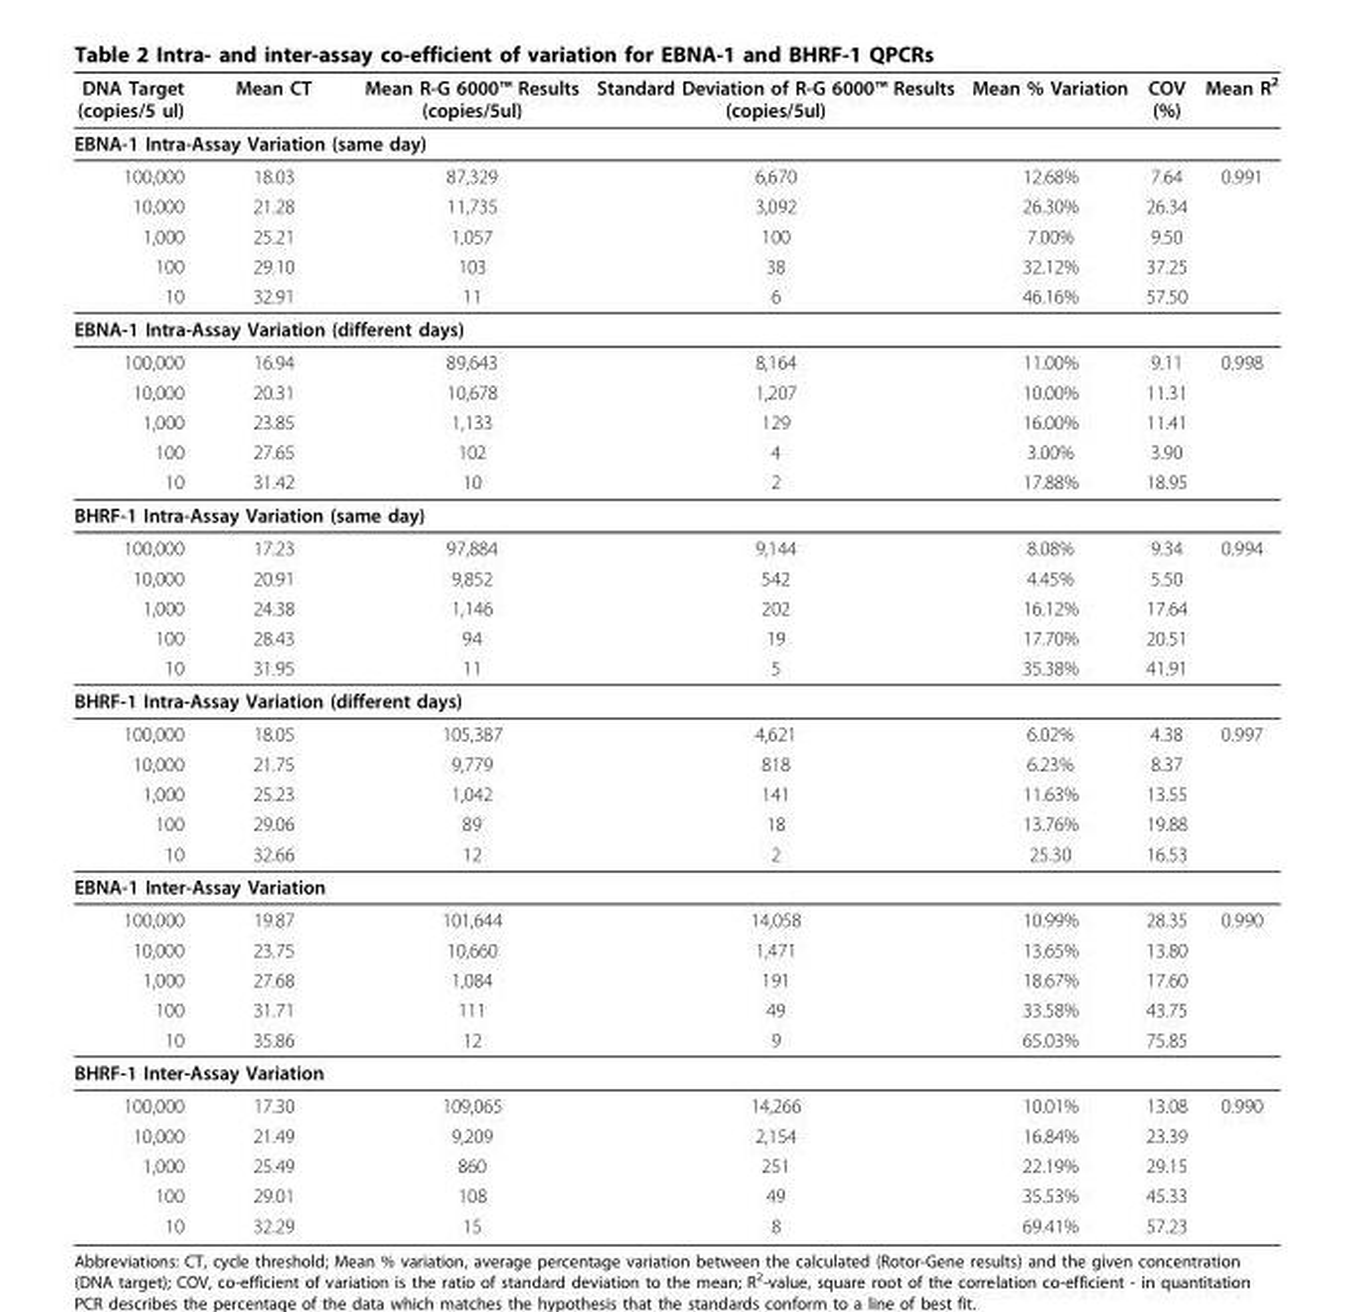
<table><thead><tr><td>DNA Target (copies/5 ul)</td><td>Mean CT</td><td>Mean R-G 6000™ Results (copies/5ul)</td><td>Standard Deviation of R-G 6000™ Results (copies/5ul)</td><td>Mean % Variation</td><td>COV (%)</td><td>Mean R<sup>2</sup></td></tr></thead><tbody><tr><td colspan="7">EBNA-1 Intra-Assay Variation (same day)</td></tr><tr><td>100,000</td><td>18.03</td><td>87,329</td><td>6,670</td><td>12.68%</td><td>7.64</td><td>0.991</td></tr><tr><td>10,000</td><td>21.28</td><td>11,735</td><td>3,092</td><td>26.30%</td><td>26.34</td><td></td></tr><tr><td>1,000</td><td>25.21</td><td>1,057</td><td>100</td><td>7.00%</td><td>9.50</td><td></td></tr><tr><td>100</td><td>29.10</td><td>103</td><td>38</td><td>32.12%</td><td>37.25</td><td></td></tr><tr><td>10</td><td>32.91</td><td>11</td><td>6</td><td>46.16%</td><td>57.50</td><td></td></tr><tr><td colspan="7">EBNA-1 Intra-Assay Variation (different days)</td></tr><tr><td>100,000</td><td>16.94</td><td>89,643</td><td>8,164</td><td>11.00%</td><td>9.11</td><td>0.998</td></tr><tr><td>10,000</td><td>20.31</td><td>10,678</td><td>1,207</td><td>10.00%</td><td>11.31</td><td></td></tr><tr><td>1,000</td><td>23.85</td><td>1,133</td><td>129</td><td>16.00%</td><td>11.41</td><td></td></tr><tr><td>100</td><td>27.65</td><td>102</td><td>4</td><td>3.00%</td><td>3.90</td><td></td></tr><tr><td>10</td><td>31.42</td><td>10</td><td>2</td><td>17.88%</td><td>18.95</td><td></td></tr><tr><td colspan="7">BHRF-1 Intra-Assay Variation (same day)</td></tr><tr><td>100,000</td><td>17.23</td><td>97,884</td><td>9,144</td><td>8.08%</td><td>9.34</td><td>0.994</td></tr><tr><td>10,000</td><td>20.91</td><td>9,852</td><td>542</td><td>4.45%</td><td>5.50</td><td></td></tr><tr><td>1,000</td><td>24.38</td><td>1,146</td><td>202</td><td>16.12%</td><td>17.64</td><td></td></tr><tr><td>100</td><td>28.43</td><td>94</td><td>19</td><td>17.70%</td><td>20.51</td><td></td></tr><tr><td>10</td><td>31.95</td><td>11</td><td>5</td><td>35.38%</td><td>41.91</td><td></td></tr><tr><td colspan="7">BHRF-1 Intra-Assay Variation (different days)</td></tr><tr><td>100,000</td><td>18.05</td><td>105,387</td><td>4,621</td><td>6.02%</td><td>4.38</td><td>0.997</td></tr><tr><td>10,000</td><td>21.75</td><td>9,779</td><td>818</td><td>6.23%</td><td>8.37</td><td></td></tr><tr><td>1,000</td><td>25.23</td><td>1,042</td><td>141</td><td>11.63%</td><td>13.55</td><td></td></tr><tr><td>100</td><td>29.06</td><td>89</td><td>18</td><td>13.76%</td><td>19.88</td><td></td></tr><tr><td>10</td><td>32.66</td><td>12</td><td>2</td><td>25.30</td><td>16.53</td><td></td></tr><tr><td colspan="7">EBNA-1 Inter-Assay Variation</td></tr><tr><td>100,000</td><td>19.87</td><td>101,644</td><td>14,058</td><td>10.99%</td><td>28.35</td><td>0.990</td></tr><tr><td>10,000</td><td>23.75</td><td>10,660</td><td>1,471</td><td>13.65%</td><td>13.80</td><td></td></tr><tr><td>1,000</td><td>27.68</td><td>1,084</td><td>191</td><td>18.67%</td><td>17.60</td><td></td></tr><tr><td>100</td><td>31.71</td><td>111</td><td>49</td><td>33.58%</td><td>43.75</td><td></td></tr><tr><td>10</td><td>35.86</td><td>12</td><td>9</td><td>65.03%</td><td>75.85</td><td></td></tr><tr><td colspan="7">BHRF-1 Inter-Assay Variation</td></tr><tr><td>100,000</td><td>17.30</td><td>109,065</td><td>14,266</td><td>10.01%</td><td>13.08</td><td>0.990</td></tr><tr><td>10,000</td><td>21.49</td><td>9,209</td><td>2,154</td><td>16.84%</td><td>23.39</td><td></td></tr><tr><td>1,000</td><td>25.49</td><td>860</td><td>251</td><td>22.19%</td><td>29.15</td><td></td></tr><tr><td>100</td><td>29.01</td><td>108</td><td>49</td><td>35.53%</td><td>45.33</td><td></td></tr><tr><td>10</td><td>32.29</td><td>15</td><td>8</td><td>69.41%</td><td>57.23</td><td></td></tr></tbody></table>